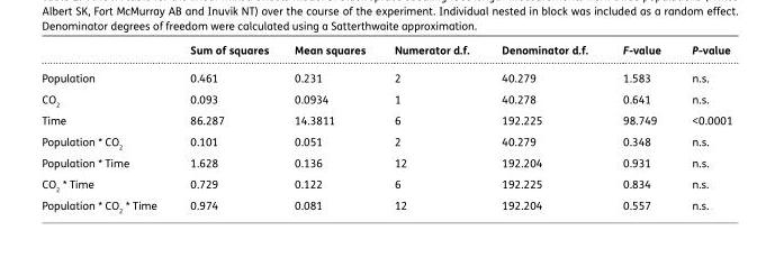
<table><thead><tr><td></td><td>Sum of squares</td><td>Mean squares</td><td>Numerator d.f.</td><td>Denominator d.f.</td><td>F-value</td><td>P-value</td></tr></thead><tbody><tr><td>Population</td><td>0.461</td><td>0.231</td><td>2</td><td>40.279</td><td>1.583</td><td>n.s.</td></tr><tr><td>CO<sub>2</sub></td><td>0.093</td><td>0.0934</td><td>1</td><td>40.278</td><td>0.641</td><td>n.s.</td></tr><tr><td>Time</td><td>86.287</td><td>14.3811</td><td>6</td><td>192.225</td><td>98.749</td><td>&lt;0.0001</td></tr><tr><td>Population * CO<sub>2</sub></td><td>0.101</td><td>0.051</td><td>2</td><td>40.279</td><td>0.348</td><td>n.s.</td></tr><tr><td>Population * Time</td><td>1.628</td><td>0.136</td><td>12</td><td>192.204</td><td>0.931</td><td>n.s.</td></tr><tr><td>CO<sub>2</sub> * Time</td><td>0.729</td><td>0.122</td><td>6</td><td>192.225</td><td>0.834</td><td>n.s.</td></tr><tr><td>Population * CO<sub>2</sub> * Time</td><td>0.974</td><td>0.081</td><td>12</td><td>192.204</td><td>0.557</td><td>n.s.</td></tr></tbody></table>